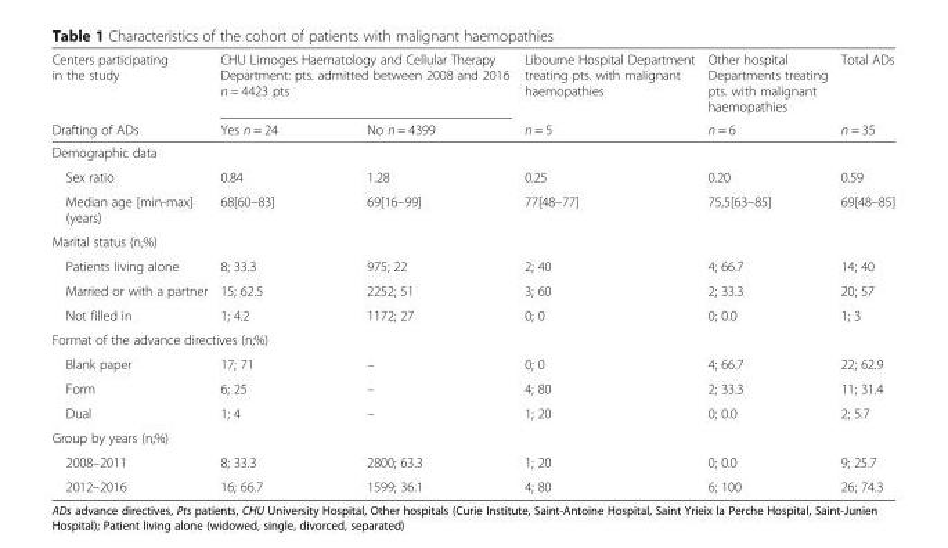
<table><thead><tr><td rowspan="2">Centers participating in the study Drafting of ADs</td><td colspan="2">CHU Limoges Haematology and Cellular Therapy Department: pts. admitted between 2008 and 2016 n = 4423 pts</td><td rowspan="2">Libourne Hospital Department treating pts. with malignant haemopathies n = 5</td><td rowspan="2">Other hospital Departments treating pts. with malignant haemopathies n = 6</td><td rowspan="2">Total ADs n = 35</td></tr><tr><td>Yes n = 24</td><td>No n = 4399</td></tr></thead><tbody><tr><td colspan="6">Demographic data</td></tr><tr><td>Sex ratio</td><td>0.84</td><td>1.28</td><td>0.25</td><td>0.20</td><td>0.59</td></tr><tr><td>Median age [min-max] (years)</td><td>68[60–83]</td><td>69[16–99]</td><td>77[48–77]</td><td>75,5[63–85]</td><td>69[48–85]</td></tr><tr><td colspan="6">Marital status (n;%)</td></tr><tr><td>Patients living alone</td><td>8; 33.3</td><td>975; 22</td><td>2; 40</td><td>4; 66.7</td><td>14; 40</td></tr><tr><td>Married or with a partner</td><td>15; 62.5</td><td>2252; 51</td><td>3; 60</td><td>2; 33.3</td><td>20; 57</td></tr><tr><td>Not filled in</td><td>1; 4.2</td><td>1172; 27</td><td>0; 0</td><td>0; 0.0</td><td>1; 3</td></tr><tr><td colspan="6">Format of the advance directives (n;%)</td></tr><tr><td>Blank paper</td><td>17; 71</td><td>–</td><td>0; 0</td><td>4; 66.7</td><td>22; 62.9</td></tr><tr><td>Form</td><td>6; 25</td><td>–</td><td>4; 80</td><td>2; 33.3</td><td>11; 31.4</td></tr><tr><td>Dual</td><td>1; 4</td><td>–</td><td>1; 20</td><td>0; 0.0</td><td>2; 5.7</td></tr><tr><td colspan="6">Group by years (n;%)</td></tr><tr><td>2008–2011</td><td>8; 33.3</td><td>2800; 63.3</td><td>1; 20</td><td>0; 0.0</td><td>9; 25.7</td></tr><tr><td>2012–2016</td><td>16; 66.7</td><td>1599; 36.1</td><td>4; 80</td><td>6; 100</td><td>26; 74.3</td></tr></tbody></table>